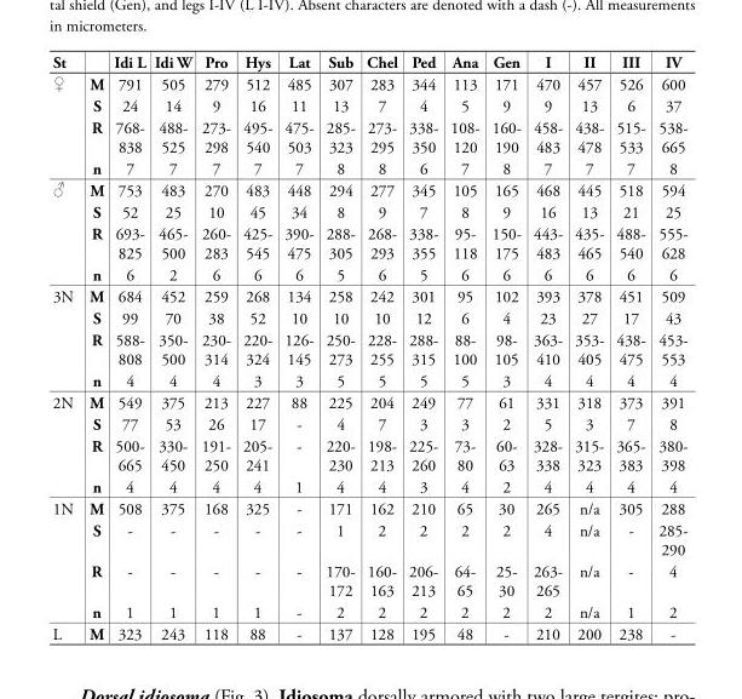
<table><thead><tr><td>St</td><td></td><td>Idi L</td><td>Idi W</td><td>Pro</td><td>Hys</td><td>Lat</td><td>Sub</td><td>Chel</td><td>Ped</td><td>Ana</td><td>Gen</td><td>I</td><td>II</td><td>III</td><td>IV</td></tr></thead><tbody><tr><td rowspan="4">♀</td><td>M</td><td>791</td><td>505</td><td>279</td><td>512</td><td>485</td><td>307</td><td>283</td><td>344</td><td>113</td><td>171</td><td>470</td><td>457</td><td>526</td><td>600</td></tr><tr><td>S</td><td>24</td><td>14</td><td>9</td><td>16</td><td>11</td><td>13</td><td>7</td><td>4</td><td>5</td><td>9</td><td>9</td><td>13</td><td>6</td><td>37</td></tr><tr><td>R</td><td>768- 838</td><td>488- 525</td><td>273- 298</td><td>495- 540</td><td>475- 503</td><td>285- 323</td><td>273- 295</td><td>338- 350</td><td>108- 120</td><td>160- 190</td><td>458- 483</td><td>438- 478</td><td>515- 533</td><td>538- 665</td></tr><tr><td>n</td><td>7</td><td>7</td><td>7</td><td>7</td><td>7</td><td>8</td><td>8</td><td>6</td><td>7</td><td>8</td><td>7</td><td>7</td><td>7</td><td>8</td></tr><tr><td rowspan="4">♂</td><td>M</td><td>753</td><td>483</td><td>270</td><td>483</td><td>448</td><td>294</td><td>277</td><td>345</td><td>105</td><td>165</td><td>468</td><td>445</td><td>518</td><td>594</td></tr><tr><td>S</td><td>52</td><td>25</td><td>10</td><td>45</td><td>34</td><td>8</td><td>9</td><td>7</td><td>8</td><td>9</td><td>16</td><td>13</td><td>21</td><td>25</td></tr><tr><td>R</td><td>693- 825</td><td>465- 500</td><td>260- 283</td><td>425- 545</td><td>390- 475</td><td>288- 305</td><td>268- 293</td><td>338- 355</td><td>95- 118</td><td>150- 175</td><td>443- 483</td><td>435- 465</td><td>488- 540</td><td>555- 628</td></tr><tr><td>n</td><td>6</td><td>2</td><td>6</td><td>6</td><td>6</td><td>5</td><td>6</td><td>5</td><td>6</td><td>6</td><td>6</td><td>6</td><td>6</td><td>6</td></tr><tr><td rowspan="4">3N</td><td>M</td><td>684</td><td>452</td><td>259</td><td>268</td><td>134</td><td>258</td><td>242</td><td>301</td><td>95</td><td>102</td><td>393</td><td>378</td><td>451</td><td>509</td></tr><tr><td>S</td><td>99</td><td>70</td><td>38</td><td>52</td><td>10</td><td>10</td><td>10</td><td>12</td><td>6</td><td>4</td><td>23</td><td>27</td><td>17</td><td>43</td></tr><tr><td>R</td><td>588- 808</td><td>350- 500</td><td>230- 314</td><td>220- 324</td><td>126- 145</td><td>250- 273</td><td>228- 255</td><td>288- 315</td><td>88- 100</td><td>98- 105</td><td>363- 410</td><td>353- 405</td><td>438- 475</td><td>453- 553</td></tr><tr><td>n</td><td>4</td><td>4</td><td>4</td><td>3</td><td>3</td><td>5</td><td>5</td><td>5</td><td>5</td><td>3</td><td>4</td><td>4</td><td>4</td><td>4</td></tr><tr><td rowspan="4">2N</td><td>M</td><td>549</td><td>375</td><td>213</td><td>227</td><td>88</td><td>225</td><td>204</td><td>249</td><td>77</td><td>61</td><td>331</td><td>318</td><td>373</td><td>391</td></tr><tr><td>S</td><td>77</td><td>53</td><td>26</td><td>17</td><td>-</td><td>4</td><td>7</td><td>3</td><td>3</td><td>2</td><td>5</td><td>3</td><td>7</td><td>8</td></tr><tr><td>R</td><td>500- 665</td><td>330- 450</td><td>191- 250</td><td>205- 241</td><td>-</td><td>220- 230</td><td>198- 213</td><td>225- 260</td><td>73- 80</td><td>60- 63</td><td>328- 338</td><td>315- 323</td><td>365- 383</td><td>380- 398</td></tr><tr><td>n</td><td>4</td><td>4</td><td>4</td><td>4</td><td>1</td><td>4</td><td>4</td><td>3</td><td>4</td><td>2</td><td>4</td><td>4</td><td>4</td><td>4</td></tr><tr><td rowspan="4">1N</td><td>M</td><td>508</td><td>375</td><td>168</td><td>325</td><td>-</td><td>171</td><td>162</td><td>210</td><td>65</td><td>30</td><td>265</td><td>n/a</td><td>305</td><td>288</td></tr><tr><td>S</td><td>-</td><td>-</td><td>-</td><td>-</td><td>-</td><td>1</td><td>2</td><td>2</td><td>2</td><td>2</td><td>4</td><td>n/a</td><td>-</td><td>285- 290</td></tr><tr><td>R</td><td>-</td><td>-</td><td>-</td><td>-</td><td>-</td><td>170- 172</td><td>160- 163</td><td>206- 213</td><td>64- 65</td><td>25- 30</td><td>263- 265</td><td>n/a</td><td>-</td><td>4</td></tr><tr><td>n</td><td>1</td><td>1</td><td>1</td><td>1</td><td>-</td><td>2</td><td>2</td><td>2</td><td>2</td><td>2</td><td>2</td><td>n/a</td><td>1</td><td>2</td></tr><tr><td>L</td><td>M</td><td>323</td><td>243</td><td>118</td><td>88</td><td>-</td><td>137</td><td>128</td><td>195</td><td>48</td><td>-</td><td>210</td><td>200</td><td>238</td><td>-</td></tr></tbody></table>